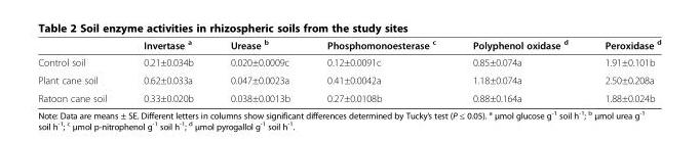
<table><thead><tr><td></td><td>Invertase <sup>a</sup></td><td>Urease <sup>b</sup></td><td>Phosphomonoesterase <sup>c</sup></td><td>Polyphenol oxidase <sup>d</sup></td><td>Peroxidase <sup>d</sup></td></tr></thead><tbody><tr><td>Control soil</td><td>0.21±0.034b</td><td>0.020±0.0009c</td><td>0.12±0.0091c</td><td>0.85±0.074a</td><td>1.91±0.101b</td></tr><tr><td>Plant cane soil</td><td>0.62±0.033a</td><td>0.047±0.0023a</td><td>0.41±0.0042a</td><td>1.18±0.074a</td><td>2.50±0.208a</td></tr><tr><td>Ratoon cane soil</td><td>0.33±0.020b</td><td>0.038±0.0013b</td><td>0.27±0.0108b</td><td>0.88±0.164a</td><td>1.88±0.024b</td></tr></tbody></table>